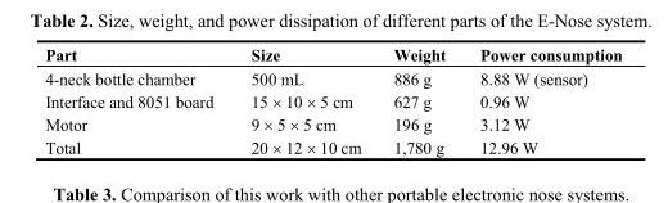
<table><thead><tr><td>Part</td><td>Size</td><td>Weight</td><td>Power consumption</td></tr></thead><tbody><tr><td>4-neck bottle chamber</td><td>500 mL</td><td>886 g</td><td>8.88 W (sensor)</td></tr><tr><td>Interface and 8051 board</td><td>15 × 10 × 5 cm</td><td>627 g</td><td>0.96 W</td></tr><tr><td>Motor</td><td>9 × 5 × 5 cm</td><td>196 g</td><td>3.12 W</td></tr><tr><td>Total</td><td>20 × 12 × 10 cm</td><td>1,780 g</td><td>12.96 W</td></tr></tbody></table>